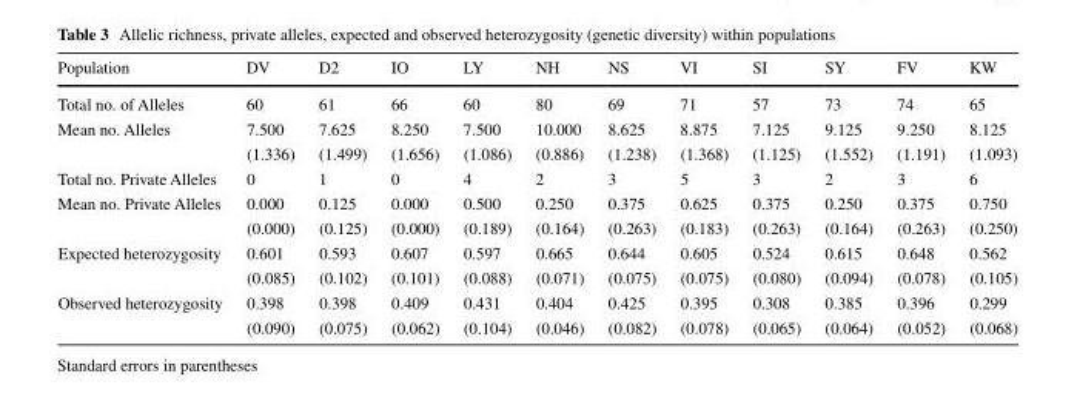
<table><thead><tr><td>Population</td><td>DV</td><td>D2</td><td>IO</td><td>LY</td><td>NH</td><td>NS</td><td>VI</td><td>SI</td><td>SY</td><td>FV</td><td>KW</td></tr></thead><tbody><tr><td>Total no. of Alleles</td><td>60</td><td>61</td><td>66</td><td>60</td><td>80</td><td>69</td><td>71</td><td>57</td><td>73</td><td>74</td><td>65</td></tr><tr><td rowspan="2">Mean no. Alleles</td><td>7.500</td><td>7.625</td><td>8.250</td><td>7.500</td><td>10.000</td><td>8.625</td><td>8.875</td><td>7.125</td><td>9.125</td><td>9.250</td><td>8.125</td></tr><tr><td>(1.336)</td><td>(1.499)</td><td>(1.656)</td><td>(1.086)</td><td>(0.886)</td><td>(1.238)</td><td>(1.368)</td><td>(1.125)</td><td>(1.552)</td><td>(1.191)</td><td>(1.093)</td></tr><tr><td>Total no. Private Alleles</td><td>0</td><td>1</td><td>0</td><td>4</td><td>2</td><td>3</td><td>5</td><td>3</td><td>2</td><td>3</td><td>6</td></tr><tr><td rowspan="2">Mean no. Private Alleles</td><td>0.000</td><td>0.125</td><td>0.000</td><td>0.500</td><td>0.250</td><td>0.375</td><td>0.625</td><td>0.375</td><td>0.250</td><td>0.375</td><td>0.750</td></tr><tr><td>(0.000)</td><td>(0.125)</td><td>(0.000)</td><td>(0.189)</td><td>(0.164)</td><td>(0.263)</td><td>(0.183)</td><td>(0.263)</td><td>(0.164)</td><td>(0.263)</td><td>(0.250)</td></tr><tr><td rowspan="2">Expected heterozygosity</td><td>0.601</td><td>0.593</td><td>0.607</td><td>0.597</td><td>0.665</td><td>0.644</td><td>0.605</td><td>0.524</td><td>0.615</td><td>0.648</td><td>0.562</td></tr><tr><td>(0.085)</td><td>(0.102)</td><td>(0.101)</td><td>(0.088)</td><td>(0.071)</td><td>(0.075)</td><td>(0.075)</td><td>(0.080)</td><td>(0.094)</td><td>(0.078)</td><td>(0.105)</td></tr><tr><td rowspan="2">Observed heterozygosity</td><td>0.398</td><td>0.398</td><td>0.409</td><td>0.431</td><td>0.404</td><td>0.425</td><td>0.395</td><td>0.308</td><td>0.385</td><td>0.396</td><td>0.299</td></tr><tr><td>(0.090)</td><td>(0.075)</td><td>(0.062)</td><td>(0.104)</td><td>(0.046)</td><td>(0.082)</td><td>(0.078)</td><td>(0.065)</td><td>(0.064)</td><td>(0.052)</td><td>(0.068)</td></tr></tbody></table>